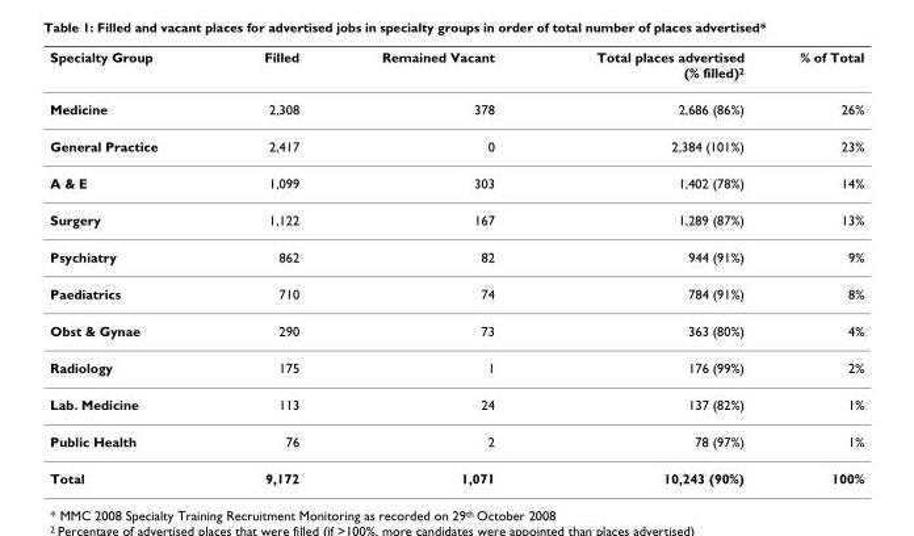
<table><thead><tr><td>Specialty Group</td><td>Filled</td><td>Remained Vacant</td><td>Total places advertised (% filled)<sup>2</sup></td><td>% of Total</td></tr></thead><tbody><tr><td>Medicine</td><td>2,308</td><td>378</td><td>2,686 (86%)</td><td>26%</td></tr><tr><td>General Practice</td><td>2,417</td><td>0</td><td>2,384 (101%)</td><td>23%</td></tr><tr><td>A &amp; E</td><td>1,099</td><td>303</td><td>1,402 (78%)</td><td>14%</td></tr><tr><td>Surgery</td><td>1,122</td><td>167</td><td>1,289 (87%)</td><td>13%</td></tr><tr><td>Psychiatry</td><td>862</td><td>82</td><td>944 (91%)</td><td>9%</td></tr><tr><td>Paediatrics</td><td>710</td><td>74</td><td>784 (91%)</td><td>8%</td></tr><tr><td>Obst &amp; Gynae</td><td>290</td><td>73</td><td>363 (80%)</td><td>4%</td></tr><tr><td>Radiology</td><td>175</td><td>1</td><td>176 (99%)</td><td>2%</td></tr><tr><td>Lab. Medicine</td><td>113</td><td>24</td><td>137 (82%)</td><td>1%</td></tr><tr><td>Public Health</td><td>76</td><td>2</td><td>78 (97%)</td><td>1%</td></tr><tr><td>Total</td><td>9,172</td><td>1,071</td><td>10,243 (90%)</td><td>100%</td></tr></tbody></table>